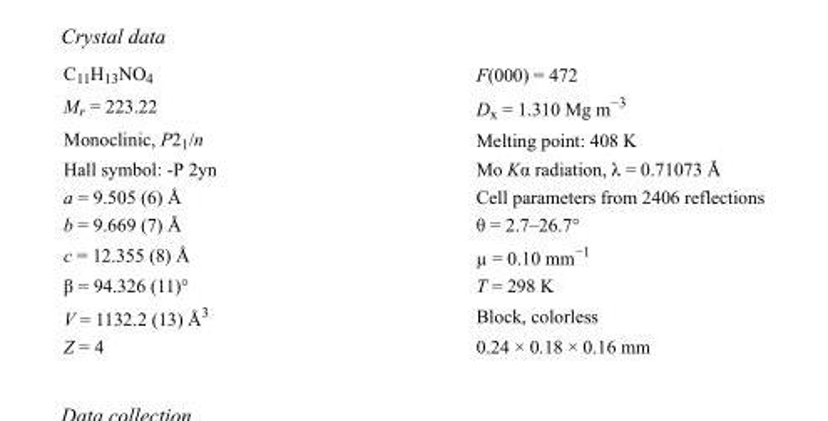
<table><tbody><tr><td>C<sub>11</sub>H<sub>13</sub>NO<sub>4</sub></td><td>F(000) = 472</td></tr><tr><td>M<sub>r</sub> = 223.22</td><td>D<sub>x</sub> = 1.310 Mg m<sup>−3</sup></td></tr><tr><td>Monoclinic, P2<sub>1</sub>/n</td><td>Melting point: 408 K</td></tr><tr><td>Hall symbol: -P 2yn</td><td>Mo Kα radiation, λ = 0.71073 Å</td></tr><tr><td>a = 9.505 (6) Å</td><td>Cell parameters from 2406 reflections</td></tr><tr><td>b = 9.669 (7) Å</td><td>θ = 2.7–26.7°</td></tr><tr><td>c = 12.355 (8) Å</td><td>µ = 0.10 mm<sup>−1</sup></td></tr><tr><td>β = 94.326 (11)°</td><td>T = 298 K</td></tr><tr><td>V = 1132.2 (13) Å<sup>3</sup></td><td>Block, colorless</td></tr><tr><td>Z = 4</td><td>0.24 × 0.18 × 0.16 mm</td></tr></tbody></table>